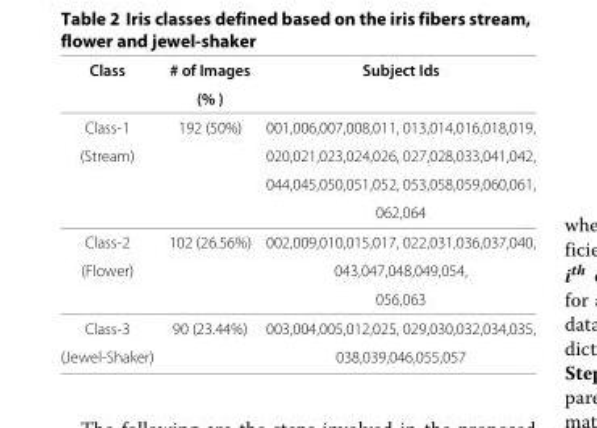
<table><thead><tr><td rowspan="2">Class</td><td rowspan="2"># of Images (% )</td><td rowspan="2">Subject Ids</td></tr><tr></tr></thead><tbody><tr><td>Class-1</td><td>192 (50%)</td><td>001,006,007,008,011, 013,014,016,018,019,</td></tr><tr><td rowspan="3">(Stream)</td><td></td><td>020,021,023,024,026, 027,028,033,041,042,</td></tr><tr><td></td><td>044,045,050,051,052, 053,058,059,060,061,</td></tr><tr><td></td><td>062,064</td></tr><tr><td>Class-2</td><td>102 (26.56%)</td><td>002,009,010,015,017, 022,031,036,037,040,</td></tr><tr><td rowspan="2">(Flower)</td><td></td><td>043,047,048,049,054,</td></tr><tr><td></td><td>056,063</td></tr><tr><td>Class-3</td><td>90 (23.44%)</td><td>003,004,005,012,025, 029,030,032,034,035,</td></tr><tr><td>(Jewel-Shaker)</td><td></td><td>038,039,046,055,057</td></tr></tbody></table>